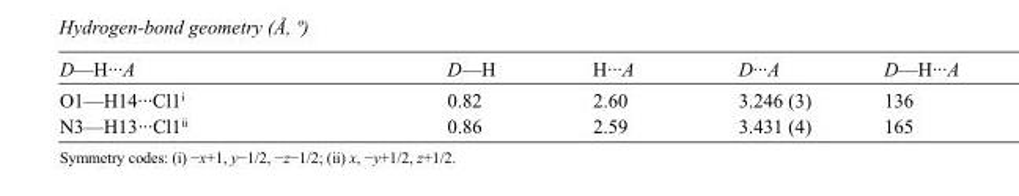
<table><tbody><tr><td>D—H···A</td><td>D—H</td><td>H···A</td><td>D···A</td><td>D—H···A</td></tr><tr><td>O1—H14···Cl1<sup>i</sup></td><td>0.82</td><td>2.60</td><td>3.246 (3)</td><td>136</td></tr><tr><td>N3—H13···Cl1<sup>ii</sup></td><td>0.86</td><td>2.59</td><td>3.431 (4)</td><td>165</td></tr></tbody></table>